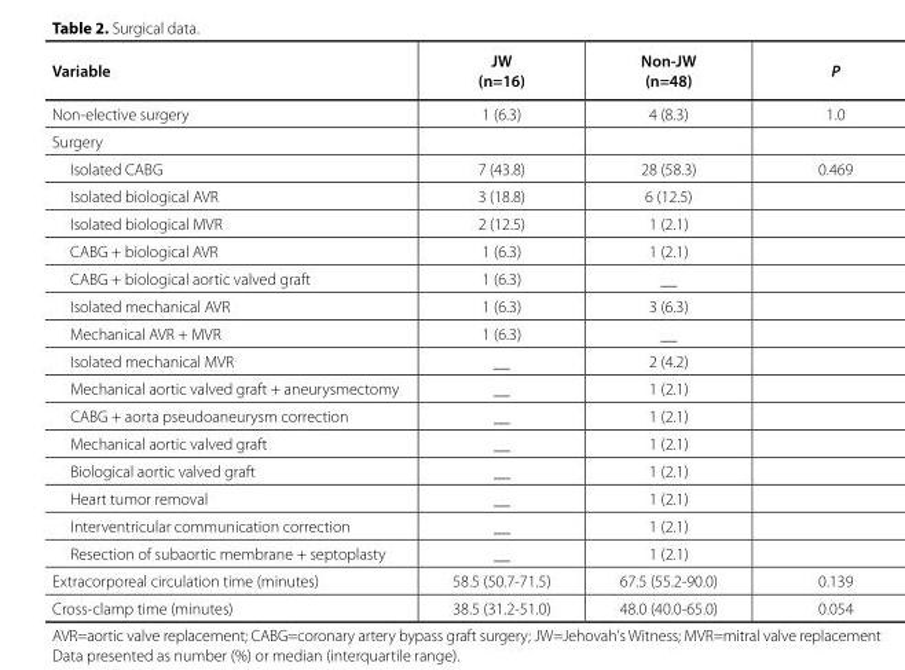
<table><thead><tr><td>Variable</td><td>JW (n=16)</td><td>Non-JW (n=48)</td><td>P</td></tr></thead><tbody><tr><td>Non-elective surgery</td><td>1 (6.3)</td><td>4 (8.3)</td><td>1.0</td></tr><tr><td colspan="4">Surgery</td></tr><tr><td>Isolated CABG</td><td>7 (43.8)</td><td>28 (58.3)</td><td>0.469</td></tr><tr><td>Isolated biological AVR</td><td>3 (18.8)</td><td>6 (12.5)</td><td></td></tr><tr><td>Isolated biological MVR</td><td>2 (12.5)</td><td>1 (2.1)</td><td></td></tr><tr><td>CABG + biological AVR</td><td>1 (6.3)</td><td>1 (2.1)</td><td></td></tr><tr><td>CABG + biological aortic valved graft</td><td>1 (6.3)</td><td>__</td><td></td></tr><tr><td>Isolated mechanical AVR</td><td>1 (6.3)</td><td>3 (6.3)</td><td></td></tr><tr><td>Mechanical AVR + MVR</td><td>1 (6.3)</td><td>__</td><td></td></tr><tr><td>Isolated mechanical MVR</td><td>__</td><td>2 (4.2)</td><td></td></tr><tr><td>Mechanical aortic valved graft + aneurysmectomy</td><td>__</td><td>1 (2.1)</td><td></td></tr><tr><td>CABG + aorta pseudoaneurysm correction</td><td>__</td><td>1 (2.1)</td><td></td></tr><tr><td>Mechanical aortic valved graft</td><td>__</td><td>1 (2.1)</td><td></td></tr><tr><td>Biological aortic valved graft</td><td>__</td><td>1 (2.1)</td><td></td></tr><tr><td>Heart tumor removal</td><td>__</td><td>1 (2.1)</td><td></td></tr><tr><td>Interventricular communication correction</td><td>__</td><td>1 (2.1)</td><td></td></tr><tr><td>Resection of subaortic membrane + septoplasty</td><td>__</td><td>1 (2.1)</td><td></td></tr><tr><td>Extracorporeal circulation time (minutes)</td><td>58.5 (50.7-71.5)</td><td>67.5 (55.2-90.0)</td><td>0.139</td></tr><tr><td>Cross-clamp time (minutes)</td><td>38.5 (31.2-51.0)</td><td>48.0 (40.0-65.0)</td><td>0.054</td></tr></tbody></table>